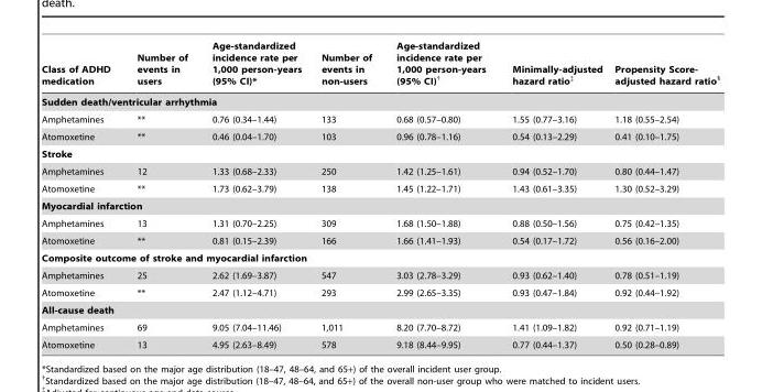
<table><thead><tr><td>Class of ADHD medication</td><td>Number of events in users</td><td>Age-standardized incidence rate per 1,000 person-years (95% CI)*</td><td>Number of events in non-users</td><td>Age-standardized incidence rate per 1,000 person-years (95% CI)†</td><td>Minimally-adjusted hazard ratio‡</td><td>Propensity Score- adjusted hazard ratio§</td></tr></thead><tbody><tr><td colspan="7">Sudden death/ventricular arrhythmia</td></tr><tr><td>Amphetamines</td><td>**</td><td>0.76 (0.34–1.44)</td><td>133</td><td>0.68 (0.57–0.80)</td><td>1.55 (0.77–3.16)</td><td>1.18 (0.55–2.54)</td></tr><tr><td>Atomoxetine</td><td>**</td><td>0.46 (0.04–1.70)</td><td>103</td><td>0.96 (0.78–1.16)</td><td>0.54 (0.13–2.29)</td><td>0.41 (0.10–1.75)</td></tr><tr><td colspan="7">Stroke</td></tr><tr><td>Amphetamines</td><td>12</td><td>1.33 (0.68–2.33)</td><td>250</td><td>1.42 (1.25–1.61)</td><td>0.94 (0.52–1.70)</td><td>0.80 (0.44–1.47)</td></tr><tr><td>Atomoxetine</td><td>**</td><td>1.73 (0.62–3.79)</td><td>138</td><td>1.45 (1.22–1.71)</td><td>1.43 (0.61–3.35)</td><td>1.30 (0.52–3.29)</td></tr><tr><td colspan="7">Myocardial infarction</td></tr><tr><td>Amphetamines</td><td>13</td><td>1.31 (0.70–2.25)</td><td>309</td><td>1.68 (1.50–1.88)</td><td>0.88 (0.50–1.56)</td><td>0.75 (0.42–1.35)</td></tr><tr><td>Atomoxetine</td><td>**</td><td>0.81 (0.15–2.39)</td><td>166</td><td>1.66 (1.41–1.93)</td><td>0.54 (0.17–1.72)</td><td>0.56 (0.16–2.00)</td></tr><tr><td colspan="7">Composite outcome of stroke and myocardial infarction</td></tr><tr><td>Amphetamines</td><td>25</td><td>2.62 (1.69–3.87)</td><td>547</td><td>3.03 (2.78–3.29)</td><td>0.93 (0.62–1.40)</td><td>0.78 (0.51–1.19)</td></tr><tr><td>Atomoxetine</td><td>**</td><td>2.47 (1.12–4.71)</td><td>293</td><td>2.99 (2.65–3.35)</td><td>0.93 (0.47–1.84)</td><td>0.92 (0.44–1.92)</td></tr><tr><td colspan="7">All-cause death</td></tr><tr><td>Amphetamines</td><td>69</td><td>9.05 (7.04–11.46)</td><td>1,011</td><td>8.20 (7.70–8.72)</td><td>1.41 (1.09–1.82)</td><td>0.92 (0.71–1.19)</td></tr><tr><td>Atomoxetine</td><td>13</td><td>4.95 (2.63–8.49)</td><td>578</td><td>9.18 (8.44–9.95)</td><td>0.77 (0.44–1.37)</td><td>0.50 (0.28–0.89)</td></tr></tbody></table>